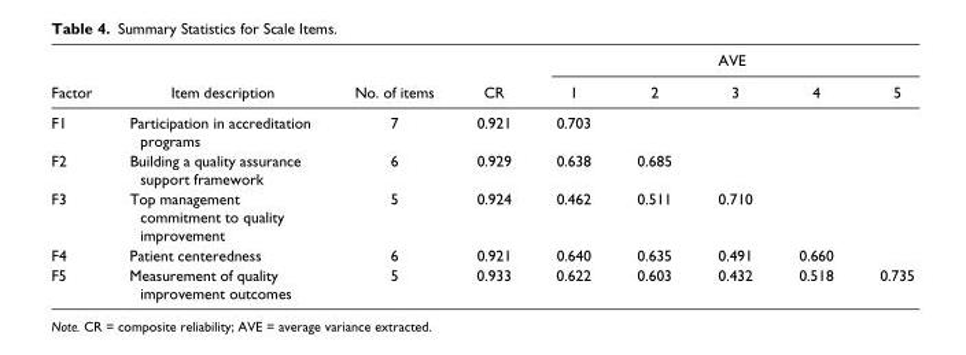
<table><thead><tr><td rowspan="2">Factor</td><td rowspan="2">Item description</td><td rowspan="2">No. of items</td><td rowspan="2">CR</td><td colspan="5">AVE</td></tr><tr><td>1</td><td>2</td><td>3</td><td>4</td><td>5</td></tr></thead><tbody><tr><td>F1</td><td>Participation in accreditation programs</td><td>7</td><td>0.921</td><td>0.703</td><td></td><td></td><td></td><td></td></tr><tr><td>F2</td><td>Building a quality assurance support framework</td><td>6</td><td>0.929</td><td>0.638</td><td>0.685</td><td></td><td></td><td></td></tr><tr><td>F3</td><td>Top management commitment to quality improvement</td><td>5</td><td>0.924</td><td>0.462</td><td>0.511</td><td>0.710</td><td></td><td></td></tr><tr><td>F4</td><td>Patient centeredness</td><td>6</td><td>0.921</td><td>0.640</td><td>0.635</td><td>0.491</td><td>0.660</td><td></td></tr><tr><td>F5</td><td>Measurement of quality improvement outcomes</td><td>5</td><td>0.933</td><td>0.622</td><td>0.603</td><td>0.432</td><td>0.518</td><td>0.735</td></tr></tbody></table>